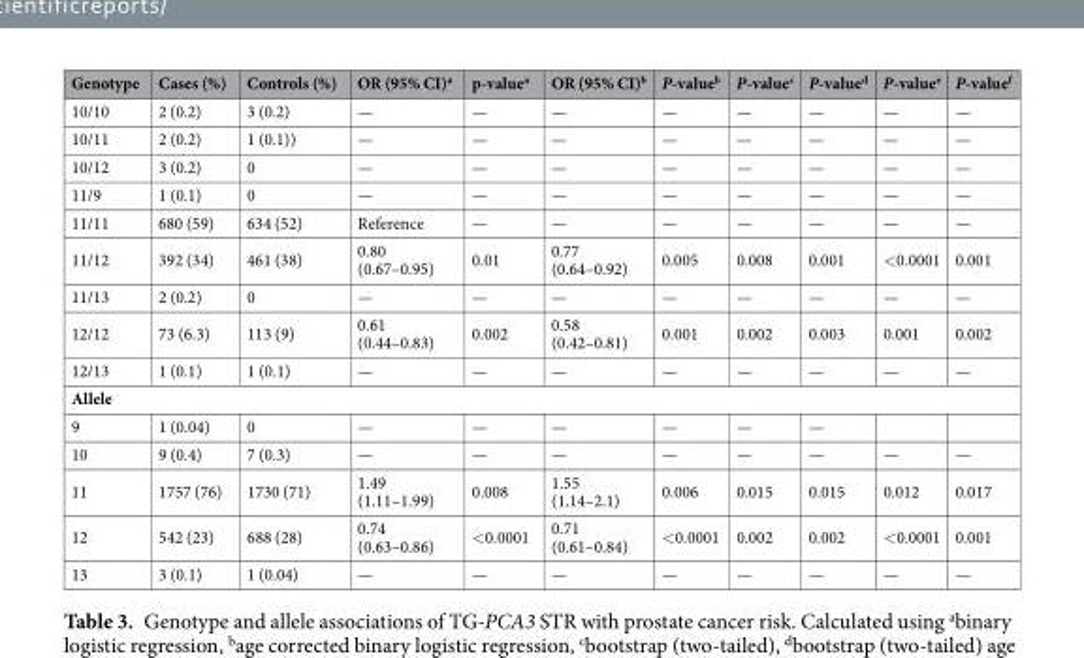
<table><thead><tr><td>Genotype</td><td>Cases (%)</td><td>Controls (%)</td><td>OR (95% CI)<sup>a</sup></td><td>p-value<sup>a</sup></td><td>OR (95% CI)<sup>b</sup></td><td>P-value<sup>b</sup></td><td>P-value<sup>c</sup></td><td>P-value<sup>d</sup></td><td>P-value<sup>e</sup></td><td>P-value<sup>f</sup></td></tr></thead><tbody><tr><td>10/10</td><td>2 (0.2)</td><td>3 (0.2)</td><td>—</td><td>—</td><td>—</td><td>—</td><td>—</td><td>—</td><td>—</td><td>—</td></tr><tr><td>10/11</td><td>2 (0.2)</td><td>1 (0.1))</td><td>—</td><td>—</td><td>—</td><td>—</td><td>—</td><td>—</td><td>—</td><td>—</td></tr><tr><td>10/12</td><td>3 (0.2)</td><td>0</td><td>—</td><td>—</td><td>—</td><td>—</td><td>—</td><td>—</td><td>—</td><td>—</td></tr><tr><td>11/9</td><td>1 (0.1)</td><td>0</td><td>—</td><td>—</td><td>—</td><td>—</td><td>—</td><td>—</td><td>—</td><td>—</td></tr><tr><td>11/11</td><td>680 (59)</td><td>634 (52)</td><td>Reference</td><td>—</td><td>—</td><td>—</td><td>—</td><td>—</td><td>—</td><td>—</td></tr><tr><td>11/12</td><td>392 (34)</td><td>461 (38)</td><td>0.80 (0.67–0.95)</td><td>0.01</td><td>0.77 (0.64–0.92)</td><td>0.005</td><td>0.008</td><td>0.001</td><td>&lt;0.0001</td><td>0.001</td></tr><tr><td>11/13</td><td>2 (0.2)</td><td>0</td><td>—</td><td>—</td><td>—</td><td>—</td><td>—</td><td>—</td><td>—</td><td>—</td></tr><tr><td>12/12</td><td>73 (6.3)</td><td>113 (9)</td><td>0.61 (0.44–0.83)</td><td>0.002</td><td>0.58 (0.42–0.81)</td><td>0.001</td><td>0.002</td><td>0.003</td><td>0.001</td><td>0.002</td></tr><tr><td>12/13</td><td>1 (0.1)</td><td>1 (0.1)</td><td>—</td><td>—</td><td>—</td><td>—</td><td>—</td><td>—</td><td>—</td><td>—</td></tr><tr><td colspan="11">Allele</td></tr><tr><td>9</td><td>1 (0.04)</td><td>0</td><td>—</td><td>—</td><td>—</td><td>—</td><td>—</td><td>—</td><td></td><td></td></tr><tr><td>10</td><td>9 (0.4)</td><td>7 (0.3)</td><td>—</td><td>—</td><td>—</td><td>—</td><td>—</td><td>—</td><td>—</td><td>—</td></tr><tr><td>11</td><td>1757 (76)</td><td>1730 (71)</td><td>1.49 (1.11–1.99)</td><td>0.008</td><td>1.55 (1.14–2.1)</td><td>0.006</td><td>0.015</td><td>0.015</td><td>0.012</td><td>0.017</td></tr><tr><td>12</td><td>542 (23)</td><td>688 (28)</td><td>0.74 (0.63–0.86)</td><td>&lt;0.0001</td><td>0.71 (0.61–0.84)</td><td>&lt;0.0001</td><td>0.002</td><td>0.002</td><td>&lt;0.0001</td><td>0.001</td></tr><tr><td>13</td><td>3 (0.1)</td><td>1 (0.04)</td><td>—</td><td>—</td><td>—</td><td>—</td><td>—</td><td>—</td><td>—</td><td>—</td></tr></tbody></table>